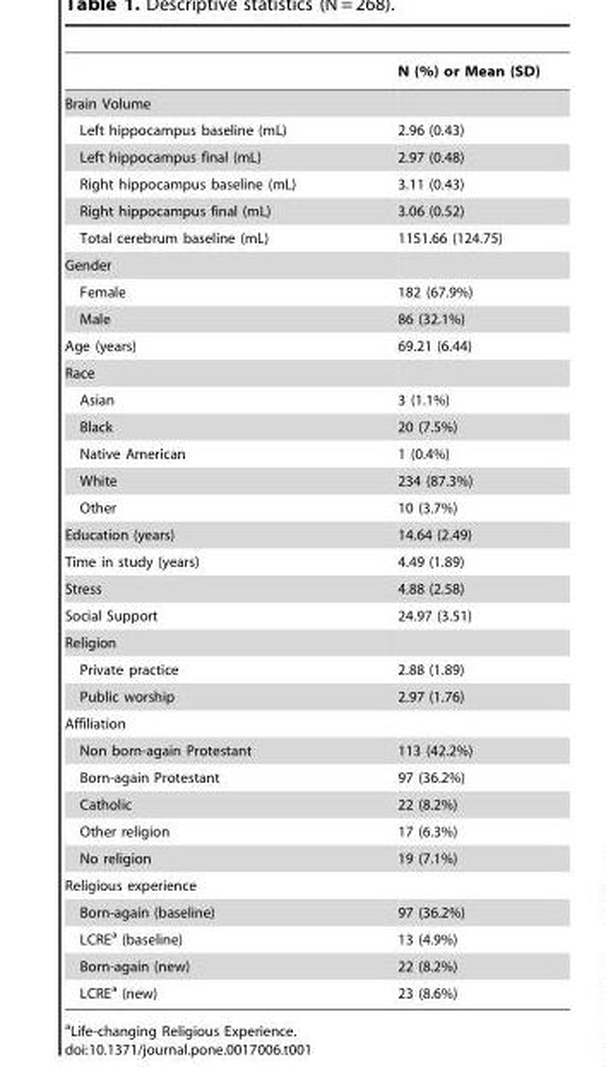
<table><thead><tr><td></td><td>N (%) or Mean (SD)</td></tr></thead><tbody><tr><td colspan="2">Brain Volume</td></tr><tr><td>Left hippocampus baseline (mL)</td><td>2.96 (0.43)</td></tr><tr><td>Left hippocampus final (mL)</td><td>2.97 (0.48)</td></tr><tr><td>Right hippocampus baseline (mL)</td><td>3.11 (0.43)</td></tr><tr><td>Right hippocampus final (mL)</td><td>3.06 (0.52)</td></tr><tr><td>Total cerebrum baseline (mL)</td><td>1151.66 (124.75)</td></tr><tr><td colspan="2">Gender</td></tr><tr><td>Female</td><td>182 (67.9%)</td></tr><tr><td>Male</td><td>86 (32.1%)</td></tr><tr><td>Age (years)</td><td>69.21 (6.44)</td></tr><tr><td colspan="2">Race</td></tr><tr><td>Asian</td><td>3 (1.1%)</td></tr><tr><td>Black</td><td>20 (7.5%)</td></tr><tr><td>Native American</td><td>1 (0.4%)</td></tr><tr><td>White</td><td>234 (87.3%)</td></tr><tr><td>Other</td><td>10 (3.7%)</td></tr><tr><td>Education (years)</td><td>14.64 (2.49)</td></tr><tr><td>Time in study (years)</td><td>4.49 (1.89)</td></tr><tr><td>Stress</td><td>4.88 (2.58)</td></tr><tr><td>Social Support</td><td>24.97 (3.51)</td></tr><tr><td colspan="2">Religion</td></tr><tr><td>Private practice</td><td>2.88 (1.89)</td></tr><tr><td>Public worship</td><td>2.97 (1.76)</td></tr><tr><td colspan="2">Affiliation</td></tr><tr><td>Non born-again Protestant</td><td>113 (42.2%)</td></tr><tr><td>Born-again Protestant</td><td>97 (36.2%)</td></tr><tr><td>Catholic</td><td>22 (8.2%)</td></tr><tr><td>Other religion</td><td>17 (6.3%)</td></tr><tr><td>No religion</td><td>19 (7.1%)</td></tr><tr><td colspan="2">Religious experience</td></tr><tr><td>Born-again (baseline)</td><td>97 (36.2%)</td></tr><tr><td>LCRE<sup>a</sup> (baseline)</td><td>13 (4.9%)</td></tr><tr><td>Born-again (new)</td><td>22 (8.2%)</td></tr><tr><td>LCRE<sup>a</sup> (new)</td><td>23 (8.6%)</td></tr></tbody></table>